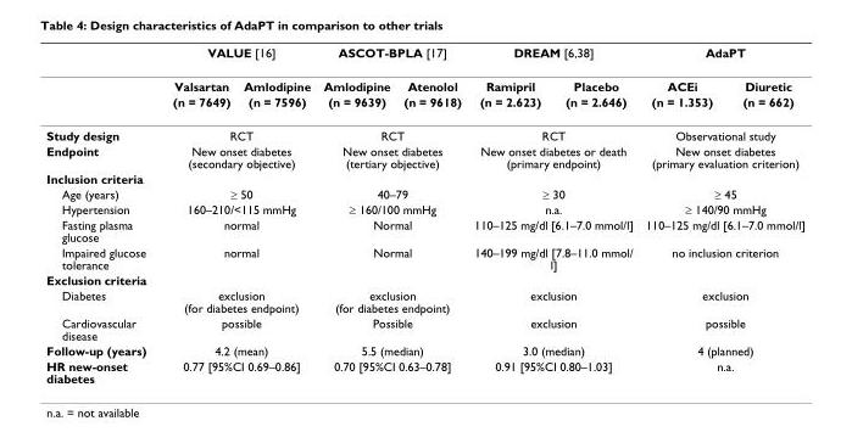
<table><thead><tr><td rowspan="2"></td><td colspan="2">VALUE [16]</td><td colspan="2">ASCOT-BPLA [17]</td><td colspan="2">DREAM [6,38]</td><td colspan="2">AdaPT</td></tr><tr><td>Valsartan</td><td>Amlodipine</td><td>Amlodipine</td><td>Atenolol</td><td>Ramipril</td><td>Placebo</td><td>ACEi</td><td>Diuretic</td></tr></thead><tbody><tr><td></td><td>(n = 7649)</td><td>(n = 7596)</td><td>(n = 9639)</td><td>(n = 9618)</td><td>(n = 2.623)</td><td>(n = 2.646)</td><td>(n = 1.353)</td><td>(n = 662)</td></tr><tr><td>Study design</td><td colspan="2">RCT</td><td colspan="2">RCT</td><td colspan="2">RCT</td><td colspan="2">Observational study</td></tr><tr><td>Endpoint</td><td colspan="2">New onset diabetes (secondary objective)</td><td colspan="2">New onset diabetes (tertiary objective)</td><td colspan="2">New onset diabetes or death (primary endpoint)</td><td colspan="2">New onset diabetes (primary evaluation criterion)</td></tr><tr><td colspan="9">Inclusion criteria</td></tr><tr><td>Age (years)</td><td colspan="2">≥ 50</td><td colspan="2">40–79</td><td colspan="2">≥ 30</td><td colspan="2">≥ 45</td></tr><tr><td>Hypertension</td><td colspan="2">160–210/&lt;115 mmHg</td><td colspan="2">≥ 160/100 mmHg</td><td colspan="2">n.a.</td><td colspan="2">≥ 140/90 mmHg</td></tr><tr><td>Fasting plasma glucose</td><td colspan="2">normal</td><td colspan="2">Normal</td><td colspan="2">110–125 mg/dl [6.1–7.0 mmol/l]</td><td colspan="2">110–125 mg/dl [6.1–7.0 mmol/l]</td></tr><tr><td>Impaired glucose tolerance</td><td colspan="2">normal</td><td colspan="2">Normal</td><td colspan="2">140–199 mg/dl [7.8–11.0 mmol/ l]</td><td colspan="2">no inclusion criterion</td></tr><tr><td colspan="9">Exclusion criteria</td></tr><tr><td>Diabetes</td><td colspan="2">exclusion (for diabetes endpoint)</td><td colspan="2">exclusion (for diabetes endpoint)</td><td colspan="2">exclusion</td><td colspan="2">exclusion</td></tr><tr><td>Cardiovascular disease</td><td colspan="2">possible</td><td colspan="2">Possible</td><td colspan="2">exclusion</td><td colspan="2">possible</td></tr><tr><td>Follow-up (years)</td><td colspan="2">4.2 (mean)</td><td colspan="2">5.5 (median)</td><td colspan="2">3.0 (median)</td><td colspan="2">4 (planned)</td></tr><tr><td>HR new-onset diabetes</td><td colspan="2">0.77 [95%CI 0.69–0.86]</td><td colspan="2">0.70 [95%CI 0.63–0.78]</td><td colspan="2">0.91 [95%CI 0.80–1.03]</td><td colspan="2">n.a.</td></tr></tbody></table>